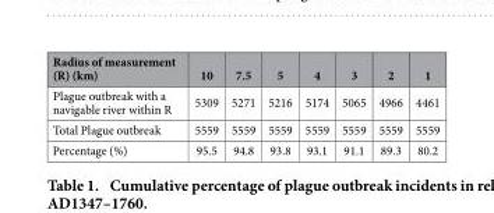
<table><thead><tr><td>Radius of measurement (R) (km)</td><td>10</td><td>7.5</td><td>5</td><td>4</td><td>3</td><td>2</td><td>1</td></tr></thead><tbody><tr><td>Plague outbreak with a navigable river within R</td><td>5309</td><td>5271</td><td>5216</td><td>5174</td><td>5065</td><td>4966</td><td>4461</td></tr><tr><td>Total Plague outbreak</td><td>5559</td><td>5559</td><td>5559</td><td>5559</td><td>5559</td><td>5559</td><td>5559</td></tr><tr><td>Percentage (%)</td><td>95.5</td><td>94.8</td><td>93.8</td><td>93.1</td><td>91.1</td><td>89.3</td><td>80.2</td></tr></tbody></table>